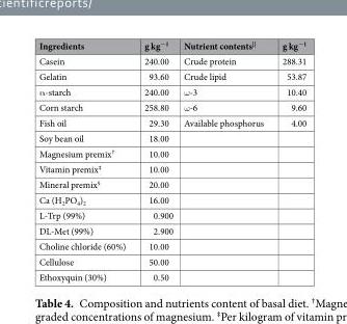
<table><thead><tr><td>Ingredients</td><td>g kg<sup>−1</sup></td><td>Nutrient contents<sup>||</sup></td><td>g kg<sup>−1</sup></td></tr></thead><tbody><tr><td>Casein</td><td>240.00</td><td>Crude protein</td><td>288.31</td></tr><tr><td>Gelatin</td><td>93.60</td><td>Crude lipid</td><td>53.87</td></tr><tr><td>α-starch</td><td>240.00</td><td>ω-3</td><td>10.40</td></tr><tr><td>Corn starch</td><td>258.80</td><td>ω-6</td><td>9.60</td></tr><tr><td>Fish oil</td><td>29.30</td><td>Available phosphorus</td><td>4.00</td></tr><tr><td>Soy bean oil</td><td>18.00</td><td></td><td></td></tr><tr><td>Magnesium premix<sup>†</sup></td><td>10.00</td><td></td><td></td></tr><tr><td>Vitamin premix<sup>‡</sup></td><td>10.00</td><td></td><td></td></tr><tr><td>Mineral premix<sup>§</sup></td><td>20.00</td><td></td><td></td></tr><tr><td>Ca (H<sub>2</sub>PO<sub>4</sub>)<sub>2</sub></td><td>16.00</td><td></td><td></td></tr><tr><td>L-Trp (99%)</td><td>0.900</td><td></td><td></td></tr><tr><td>DL-Met (99%)</td><td>2.900</td><td></td><td></td></tr><tr><td>Choline chloride (60%)</td><td>10.00</td><td></td><td></td></tr><tr><td>Cellulose</td><td>50.00</td><td></td><td></td></tr><tr><td>Ethoxyquin (30%)</td><td>0.50</td><td></td><td></td></tr></tbody></table>